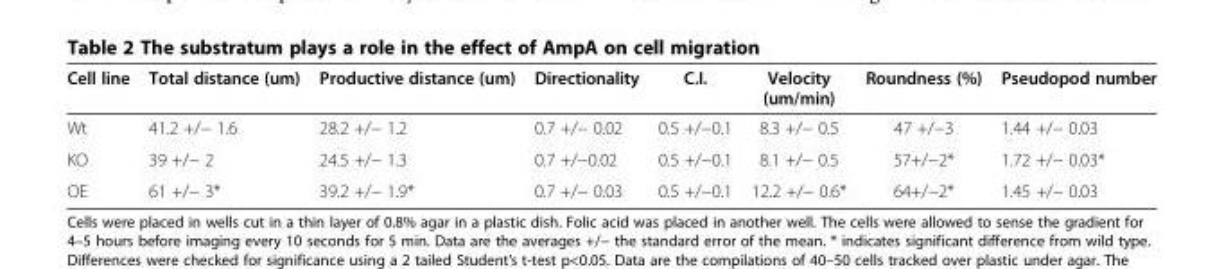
<table><thead><tr><td>Cell line</td><td>Total distance (um)</td><td>Productive distance (um)</td><td>Directionality</td><td>C.I.</td><td>Velocity (um/min)</td><td>Roundness (%)</td><td>Pseudopod number</td></tr></thead><tbody><tr><td>Wt</td><td>41.2 +/− 1.6</td><td>28.2 +/− 1.2</td><td>0.7 +/− 0.02</td><td>0.5 +/−0.1</td><td>8.3 +/− 0.5</td><td>47 +/−3</td><td>1.44 +/− 0.03</td></tr><tr><td>KO</td><td>39 +/− 2</td><td>24.5 +/− 1.3</td><td>0.7 +/−0.02</td><td>0.5 +/−0.1</td><td>8.1 +/− 0.5</td><td>57+/−2*</td><td>1.72 +/− 0.03*</td></tr><tr><td>OE</td><td>61 +/− 3*</td><td>39.2 +/− 1.9*</td><td>0.7 +/− 0.03</td><td>0.5 +/−0.1</td><td>12.2 +/− 0.6*</td><td>64+/−2*</td><td>1.45 +/− 0.03</td></tr></tbody></table>